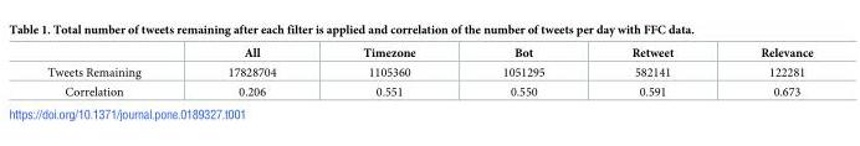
<table><thead><tr><td></td><td>All</td><td>Timezone</td><td>Bot</td><td>Retweet</td><td>Relevance</td></tr></thead><tbody><tr><td>Tweets Remaining</td><td>17828704</td><td>1105360</td><td>1051295</td><td>582141</td><td>122281</td></tr><tr><td>Correlation</td><td>0.206</td><td>0.551</td><td>0.550</td><td>0.591</td><td>0.673</td></tr></tbody></table>